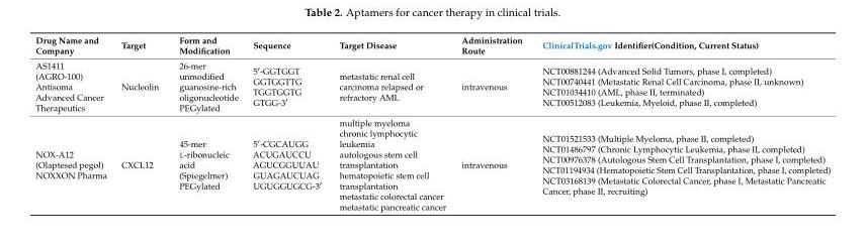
<table><thead><tr><td>Drug Name and Company</td><td>Target</td><td>Form and Modification</td><td>Sequence</td><td>Target Disease</td><td>Administration Route</td><td>ClinicalTrials.gov Identifier(Condition, Current Status)</td></tr></thead><tbody><tr><td>AS1411 (AGRO-100) Antisoma Advanced Cancer Therapeutics</td><td>Nucleolin</td><td>26-mer unmodified guanosine-rich oligonucleotide PEGylated</td><td>5′-GGTGGT GGTGGTTG TGGTGGTG GTGG-3′</td><td>metastatic renal cell carcinoma relapsed or refractory AML</td><td>intravenous</td><td>NCT00881244 (Advanced Solid Tumors, phase I, completed) NCT00740441 (Metastatic Renal Cell Carcinoma, phase II, unknown) NCT01034410 (AML, phase II, terminated) NCT00512083 (Leukemia, Myeloid, phase II, completed)</td></tr><tr><td>NOX-A12 (Olaptesed pegol) NOXXON Pharma</td><td>CXCL12</td><td>45-mer L-ribonucleic acid (Spiegelmer) PEGylated</td><td>5′-CGCAUGG ACUGAUCCU AGUCGGUUAU GUAGAUCUAG UGUGGUGCG-3′</td><td>multiple myeloma chronic lymphocytic leukemia autologous stem cell transplantation hematopoietic stem cell transplantation metastatic colorectal cancer metastatic pancreatic cancer</td><td>intravenous</td><td>NCT01521533 (Multiple Myeloma, phase II, completed) NCT01486797 (Chronic Lymphocytic Leukemia, phase II, completed) NCT00976378 (Autologous Stem Cell Transplantation, phase I, completed) NCT01194934 (Hematopoietic Stem Cell Transplantation, phase I, completed) NCT03168139 (Metastatic Colorectal Cancer, phase I, Metastatic Pancreatic Cancer, phase II, recruiting)</td></tr></tbody></table>